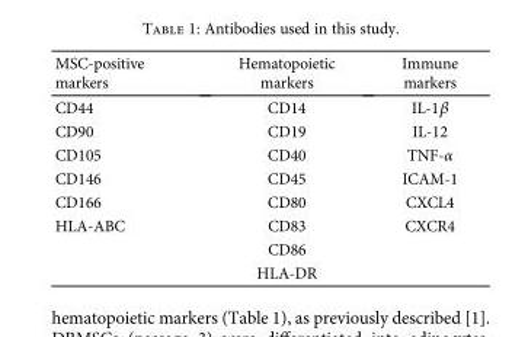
<table><thead><tr><td>MSC-positive markers</td><td>Hematopoietic markers</td><td>Immune markers</td></tr></thead><tbody><tr><td>CD44</td><td>CD14</td><td>IL-1β</td></tr><tr><td>CD90</td><td>CD19</td><td>IL-12</td></tr><tr><td>CD105</td><td>CD40</td><td>TNF-α</td></tr><tr><td>CD146</td><td>CD45</td><td>ICAM-1</td></tr><tr><td>CD166</td><td>CD80</td><td>CXCL4</td></tr><tr><td rowspan="3">HLA-ABC</td><td>CD83</td><td>CXCR4</td></tr><tr><td>CD86</td><td></td></tr><tr><td>HLA-DR</td><td></td></tr></tbody></table>